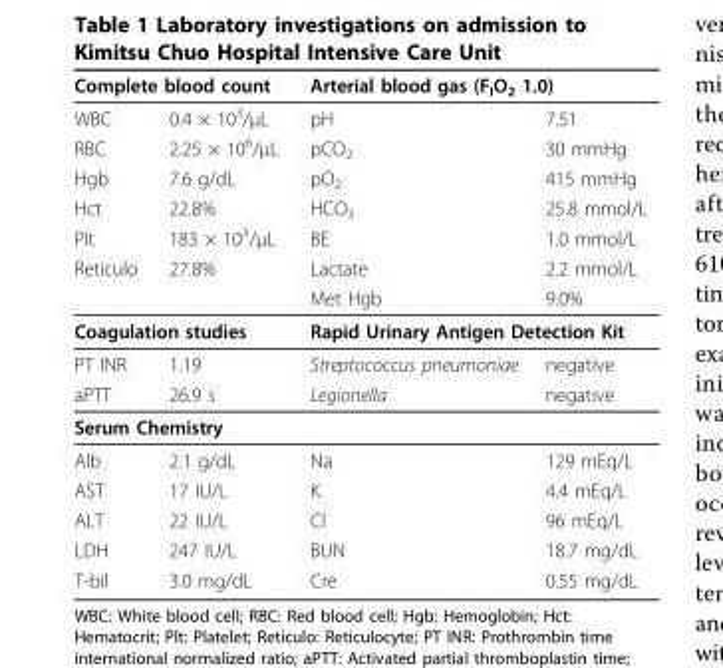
<table><thead><tr><td colspan="2">Complete blood count</td><td colspan="2">Arterial blood gas (F<sub>I</sub>O<sub>2</sub> 1.0)</td></tr><tr><td>WBC</td><td>0.4 × 10<sup>3</sup>/μL</td><td>pH</td><td>7.51</td></tr></thead><tbody><tr><td>RBC</td><td>2.25 × 10<sup>6</sup>/μL</td><td>pCO<sub>2</sub></td><td>30 mmHg</td></tr><tr><td>Hgb</td><td>7.6 g/dL</td><td>pO<sub>2</sub></td><td>415 mmHg</td></tr><tr><td>Hct</td><td>22.8%</td><td>HCO<sub>3</sub></td><td>25.8 mmol/L</td></tr><tr><td>Plt</td><td>183 × 10<sup>3</sup>/μL</td><td>BE</td><td>1.0 mmol/L</td></tr><tr><td rowspan="2">Reticulo</td><td>27.8%</td><td>Lactate</td><td>2.2 mmol/L</td></tr><tr><td></td><td>Met Hgb</td><td>9.0%</td></tr><tr><td colspan="2">Coagulation studies</td><td colspan="2">Rapid Urinary Antigen Detection Kit</td></tr><tr><td>PT INR</td><td>1.19</td><td>Streptococcus pneumoniae</td><td>negative</td></tr><tr><td>aPTT</td><td>26.9 s</td><td>Legionella</td><td>negative</td></tr><tr><td colspan="4">Serum Chemistry</td></tr><tr><td>Alb</td><td>2.1 g/dL</td><td>Na</td><td>129 mEq/L</td></tr><tr><td>AST</td><td>17 IU/L</td><td>K</td><td>4.4 mEq/L</td></tr><tr><td>ALT</td><td>22 IU/L</td><td>Cl</td><td>96 mEq/L</td></tr><tr><td>LDH</td><td>247 IU/L</td><td>BUN</td><td>18.7 mg/dL</td></tr><tr><td>T-bil</td><td>3.0 mg/dL</td><td>Cre</td><td>0.55 mg/dL</td></tr></tbody></table>